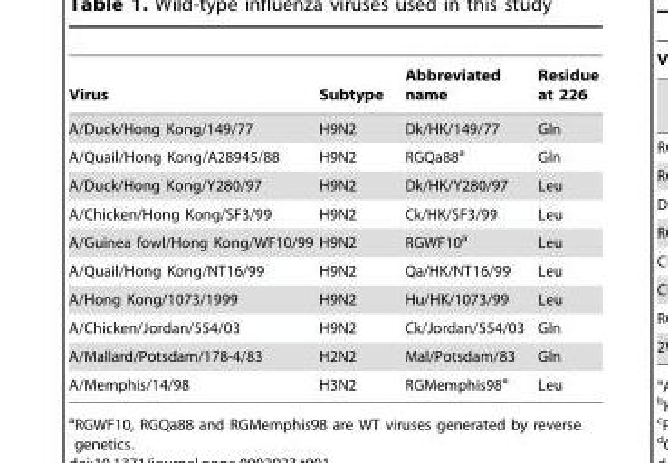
<table><thead><tr><td>Virus</td><td>Subtype</td><td>Abbreviated name</td><td>Residue at 226</td></tr></thead><tbody><tr><td>A/Duck/Hong Kong/149/77</td><td>H9N2</td><td>Dk/HK/149/77</td><td>Gln</td></tr><tr><td>A/Quail/Hong Kong/A28945/88</td><td>H9N2</td><td>RGQa88<sup>a</sup></td><td>Gln</td></tr><tr><td>A/Duck/Hong Kong/Y280/97</td><td>H9N2</td><td>Dk/HK/Y280/97</td><td>Leu</td></tr><tr><td>A/Chicken/Hong Kong/SF3/99</td><td>H9N2</td><td>Ck/HK/SF3/99</td><td>Leu</td></tr><tr><td>A/Guinea fowl/Hong Kong/WF10/99</td><td>H9N2</td><td>RGWF10<sup>a</sup></td><td>Leu</td></tr><tr><td>A/Quail/Hong Kong/NT16/99</td><td>H9N2</td><td>Qa/HK/NT16/99</td><td>Leu</td></tr><tr><td>A/Hong Kong/1073/1999</td><td>H9N2</td><td>Hu/HK/1073/99</td><td>Leu</td></tr><tr><td>A/Chicken/Jordan/554/03</td><td>H9N2</td><td>Ck/Jordan/554/03</td><td>Gln</td></tr><tr><td>A/Mallard/Potsdam/178-4/83</td><td>H2N2</td><td>Mal/Potsdam/83</td><td>Gln</td></tr><tr><td>A/Memphis/14/98</td><td>H3N2</td><td>RGMemphis98<sup>a</sup></td><td>Leu</td></tr></tbody></table>